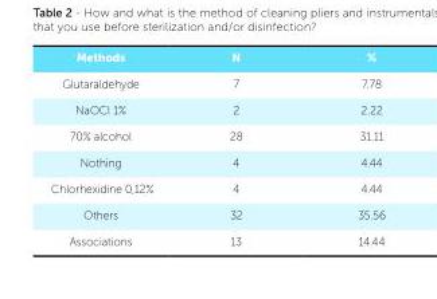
<table><tbody><tr><td>Methods</td><td>N</td><td>%</td></tr><tr><td>Glutaraldehyde</td><td>7</td><td>7.78</td></tr><tr><td>NaOCl 1%</td><td>2</td><td>2.22</td></tr><tr><td>70% alcohol</td><td>28</td><td>31.11</td></tr><tr><td>Nothing</td><td>4</td><td>4.44</td></tr><tr><td>Chlorhexidine 0,12%</td><td>4</td><td>4.44</td></tr><tr><td>Others</td><td>32</td><td>35.56</td></tr><tr><td>Associations</td><td>13</td><td>14.44</td></tr></tbody></table>